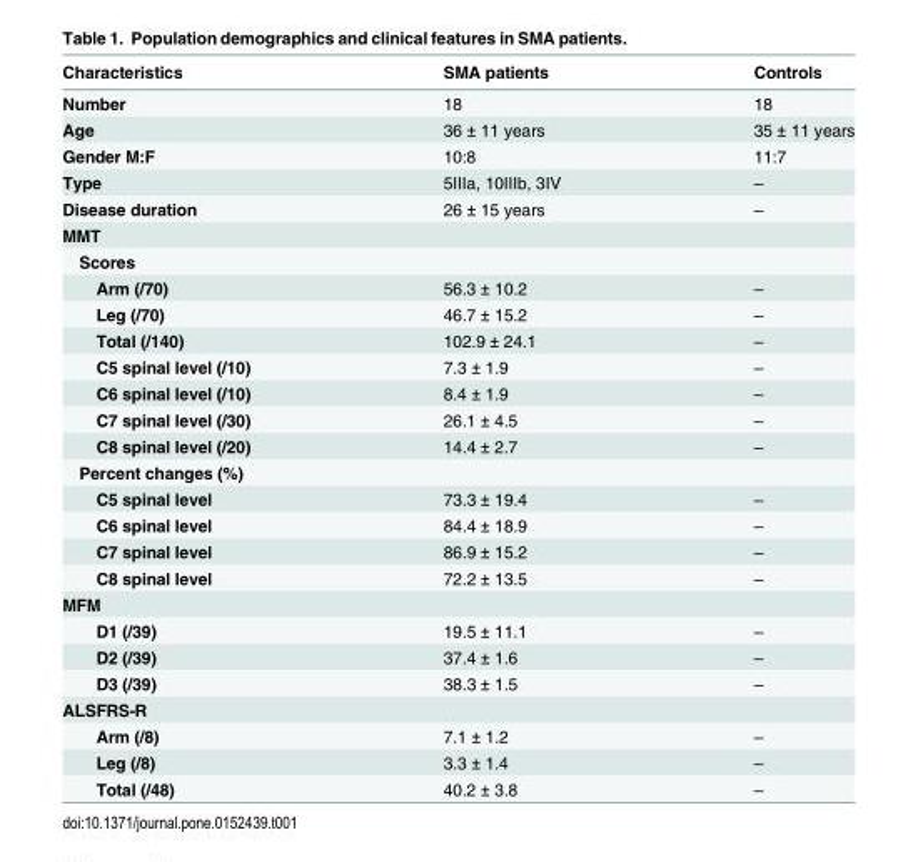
<table><thead><tr><td>Characteristics</td><td>SMA patients</td><td>Controls</td></tr></thead><tbody><tr><td>Number</td><td>18</td><td>18</td></tr><tr><td>Age</td><td>36 ± 11 years</td><td>35 ± 11 years</td></tr><tr><td>Gender M:F</td><td>10:8</td><td>11:7</td></tr><tr><td>Type</td><td>5IIIa, 10IIIb, 3IV</td><td>–</td></tr><tr><td>Disease duration</td><td>26 ± 15 years</td><td>–</td></tr><tr><td colspan="3">MMT</td></tr><tr><td colspan="3">Scores</td></tr><tr><td>Arm (/70)</td><td>56.3 ± 10.2</td><td>–</td></tr><tr><td>Leg (/70)</td><td>46.7 ± 15.2</td><td>–</td></tr><tr><td>Total (/140)</td><td>102.9 ± 24.1</td><td>–</td></tr><tr><td>C5 spinal level (/10)</td><td>7.3 ± 1.9</td><td>–</td></tr><tr><td>C6 spinal level (/10)</td><td>8.4 ± 1.9</td><td>–</td></tr><tr><td>C7 spinal level (/30)</td><td>26.1 ± 4.5</td><td>–</td></tr><tr><td>C8 spinal level (/20)</td><td>14.4 ± 2.7</td><td>–</td></tr><tr><td colspan="3">Percent changes (%)</td></tr><tr><td>C5 spinal level</td><td>73.3 ± 19.4</td><td>–</td></tr><tr><td>C6 spinal level</td><td>84.4 ± 18.9</td><td>–</td></tr><tr><td>C7 spinal level</td><td>86.9 ± 15.2</td><td>–</td></tr><tr><td>C8 spinal level</td><td>72.2 ± 13.5</td><td>–</td></tr><tr><td colspan="3">MFM</td></tr><tr><td>D1 (/39)</td><td>19.5 ± 11.1</td><td>–</td></tr><tr><td>D2 (/39)</td><td>37.4 ± 1.6</td><td>–</td></tr><tr><td>D3 (/39)</td><td>38.3 ± 1.5</td><td>–</td></tr><tr><td colspan="3">ALSFRS-R</td></tr><tr><td>Arm (/8)</td><td>7.1 ± 1.2</td><td>–</td></tr><tr><td>Leg (/8)</td><td>3.3 ± 1.4</td><td>–</td></tr><tr><td>Total (/48)</td><td>40.2 ± 3.8</td><td>–</td></tr></tbody></table>